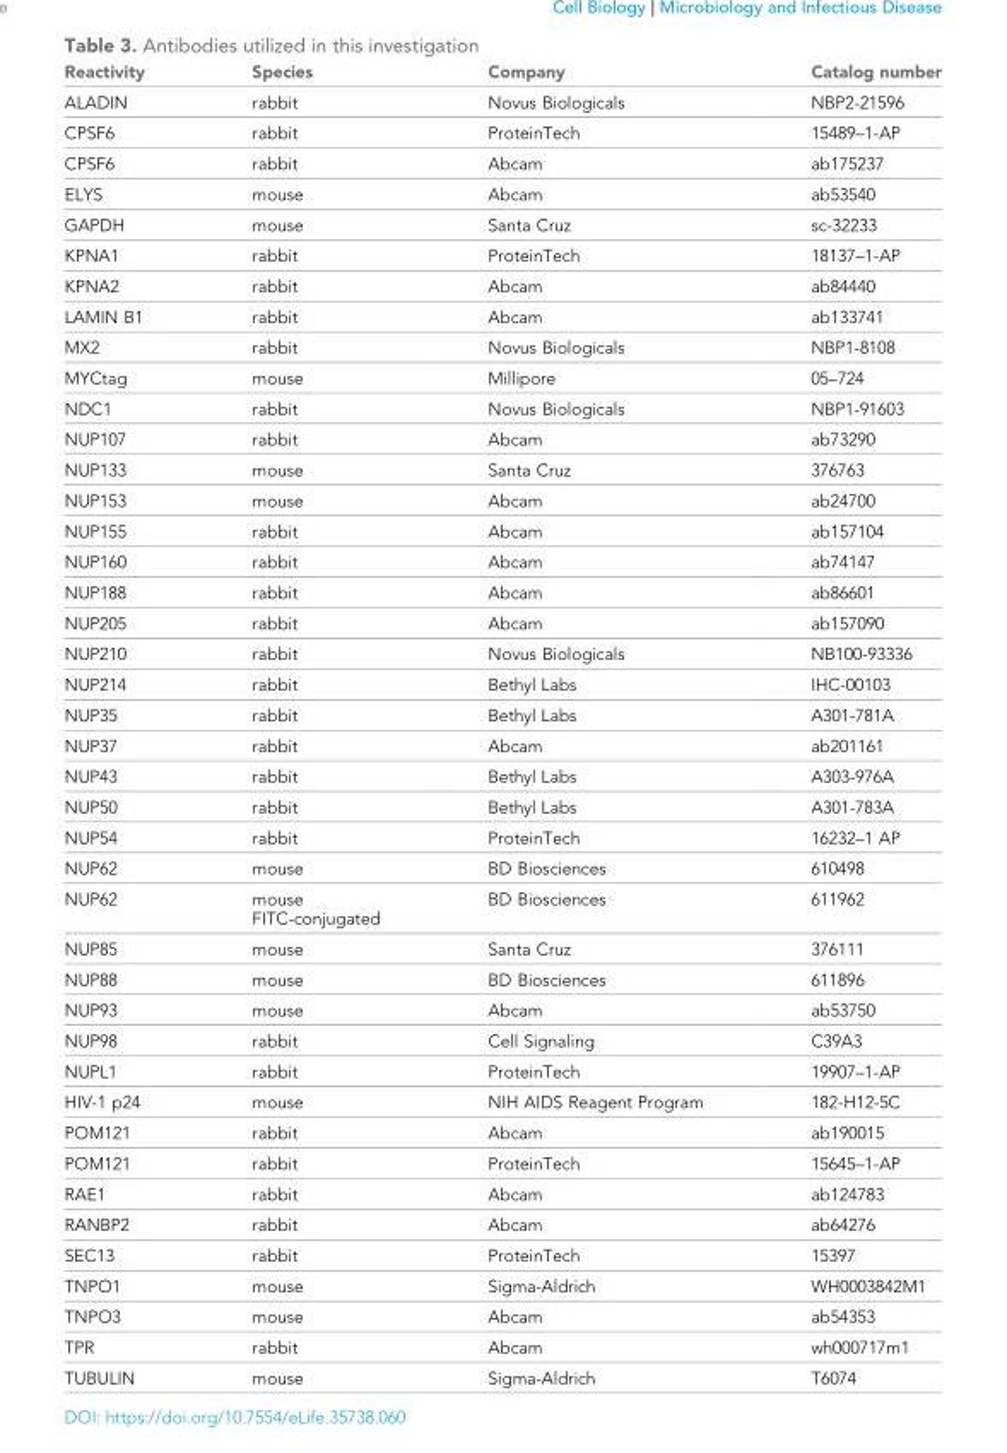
<table><thead><tr><td>Reactivity</td><td>Species</td><td>Company</td><td>Catalog number</td></tr></thead><tbody><tr><td>ALADIN</td><td>rabbit</td><td>Novus Biologicals</td><td>NBP2-21596</td></tr><tr><td>CPSF6</td><td>rabbit</td><td>ProteinTech</td><td>15489–1-AP</td></tr><tr><td>CPSF6</td><td>rabbit</td><td>Abcam</td><td>ab175237</td></tr><tr><td>ELYS</td><td>mouse</td><td>Abcam</td><td>ab53540</td></tr><tr><td>GAPDH</td><td>mouse</td><td>Santa Cruz</td><td>sc-32233</td></tr><tr><td>KPNA1</td><td>rabbit</td><td>ProteinTech</td><td>18137–1-AP</td></tr><tr><td>KPNA2</td><td>rabbit</td><td>Abcam</td><td>ab84440</td></tr><tr><td>LAMIN B1</td><td>rabbit</td><td>Abcam</td><td>ab133741</td></tr><tr><td>MX2</td><td>rabbit</td><td>Novus Biologicals</td><td>NBP1-8108</td></tr><tr><td>MYCtag</td><td>mouse</td><td>Millipore</td><td>05–724</td></tr><tr><td>NDC1</td><td>rabbit</td><td>Novus Biologicals</td><td>NBP1-91603</td></tr><tr><td>NUP107</td><td>rabbit</td><td>Abcam</td><td>ab73290</td></tr><tr><td>NUP133</td><td>mouse</td><td>Santa Cruz</td><td>376763</td></tr><tr><td>NUP153</td><td>mouse</td><td>Abcam</td><td>ab24700</td></tr><tr><td>NUP155</td><td>rabbit</td><td>Abcam</td><td>ab157104</td></tr><tr><td>NUP160</td><td>rabbit</td><td>Abcam</td><td>ab74147</td></tr><tr><td>NUP188</td><td>rabbit</td><td>Abcam</td><td>ab86601</td></tr><tr><td>NUP205</td><td>rabbit</td><td>Abcam</td><td>ab157090</td></tr><tr><td>NUP210</td><td>rabbit</td><td>Novus Biologicals</td><td>NB100-93336</td></tr><tr><td>NUP214</td><td>rabbit</td><td>Bethyl Labs</td><td>IHC-00103</td></tr><tr><td>NUP35</td><td>rabbit</td><td>Bethyl Labs</td><td>A301-781A</td></tr><tr><td>NUP37</td><td>rabbit</td><td>Abcam</td><td>ab201161</td></tr><tr><td>NUP43</td><td>rabbit</td><td>Bethyl Labs</td><td>A303-976A</td></tr><tr><td>NUP50</td><td>rabbit</td><td>Bethyl Labs</td><td>A301-783A</td></tr><tr><td>NUP54</td><td>rabbit</td><td>ProteinTech</td><td>16232–1 AP</td></tr><tr><td>NUP62</td><td>mouse</td><td>BD Biosciences</td><td>610498</td></tr><tr><td>NUP62</td><td>mouse FITC-conjugated</td><td>BD Biosciences</td><td>611962</td></tr><tr><td>NUP85</td><td>mouse</td><td>Santa Cruz</td><td>376111</td></tr><tr><td>NUP88</td><td>mouse</td><td>BD Biosciences</td><td>611896</td></tr><tr><td>NUP93</td><td>mouse</td><td>Abcam</td><td>ab53750</td></tr><tr><td>NUP98</td><td>rabbit</td><td>Cell Signaling</td><td>C39A3</td></tr><tr><td>NUPL1</td><td>rabbit</td><td>ProteinTech</td><td>19907–1-AP</td></tr><tr><td>HIV-1 p24</td><td>mouse</td><td>NIH AIDS Reagent Program</td><td>182-H12-5C</td></tr><tr><td>POM121</td><td>rabbit</td><td>Abcam</td><td>ab190015</td></tr><tr><td>POM121</td><td>rabbit</td><td>ProteinTech</td><td>15645–1-AP</td></tr><tr><td>RAE1</td><td>rabbit</td><td>Abcam</td><td>ab124783</td></tr><tr><td>RANBP2</td><td>rabbit</td><td>Abcam</td><td>ab64276</td></tr><tr><td>SEC13</td><td>rabbit</td><td>ProteinTech</td><td>15397</td></tr><tr><td>TNPO1</td><td>mouse</td><td>Sigma-Aldrich</td><td>WH0003842M1</td></tr><tr><td>TNPO3</td><td>mouse</td><td>Abcam</td><td>ab54353</td></tr><tr><td>TPR</td><td>rabbit</td><td>Abcam</td><td>wh000717m1</td></tr><tr><td>TUBULIN</td><td>mouse</td><td>Sigma-Aldrich</td><td>T6074</td></tr></tbody></table>